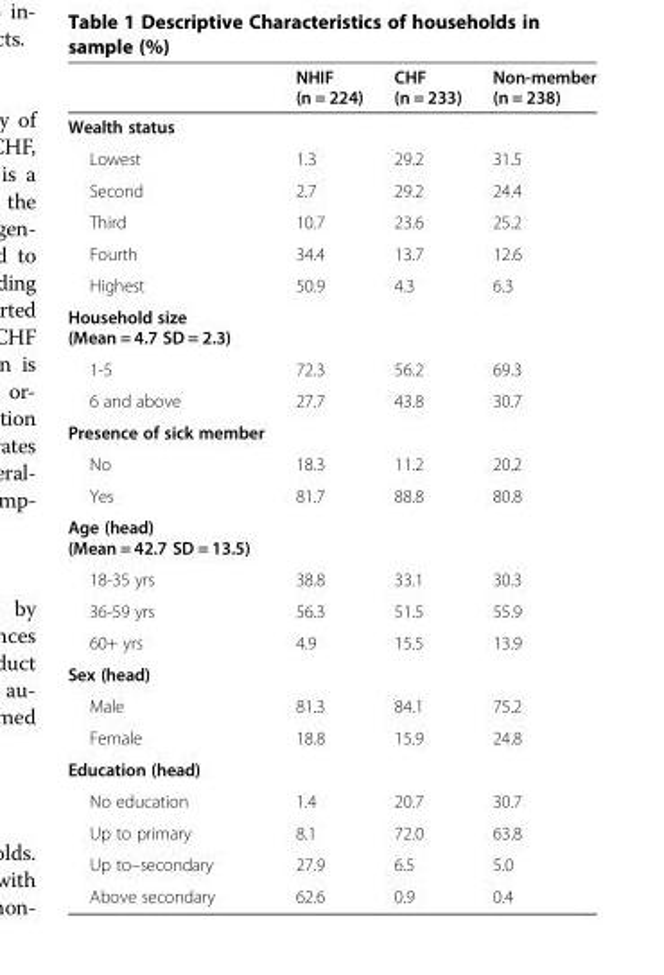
<table><thead><tr><td></td><td>NHIF (n = 224)</td><td>CHF (n = 233)</td><td>Non-member (n = 238)</td></tr></thead><tbody><tr><td colspan="4">Wealth status</td></tr><tr><td>Lowest</td><td>1.3</td><td>29.2</td><td>31.5</td></tr><tr><td>Second</td><td>2.7</td><td>29.2</td><td>24.4</td></tr><tr><td>Third</td><td>10.7</td><td>23.6</td><td>25.2</td></tr><tr><td>Fourth</td><td>34.4</td><td>13.7</td><td>12.6</td></tr><tr><td>Highest</td><td>50.9</td><td>4.3</td><td>6.3</td></tr><tr><td colspan="4">Household size (Mean = 4.7 SD = 2.3)</td></tr><tr><td>1-5</td><td>72.3</td><td>56.2</td><td>69.3</td></tr><tr><td>6 and above</td><td>27.7</td><td>43.8</td><td>30.7</td></tr><tr><td colspan="4">Presence of sick member</td></tr><tr><td>No</td><td>18.3</td><td>11.2</td><td>20.2</td></tr><tr><td>Yes</td><td>81.7</td><td>88.8</td><td>80.8</td></tr><tr><td colspan="4">Age (head) (Mean = 42.7 SD = 13.5)</td></tr><tr><td>18-35 yrs</td><td>38.8</td><td>33.1</td><td>30.3</td></tr><tr><td>36-59 yrs</td><td>56.3</td><td>51.5</td><td>55.9</td></tr><tr><td>60+ yrs</td><td>4.9</td><td>15.5</td><td>13.9</td></tr><tr><td colspan="4">Sex (head)</td></tr><tr><td>Male</td><td>81.3</td><td>84.1</td><td>75.2</td></tr><tr><td>Female</td><td>18.8</td><td>15.9</td><td>24.8</td></tr><tr><td colspan="4">Education (head)</td></tr><tr><td>No education</td><td>1.4</td><td>20.7</td><td>30.7</td></tr><tr><td>Up to primary</td><td>8.1</td><td>72.0</td><td>63.8</td></tr><tr><td>Up to–secondary</td><td>27.9</td><td>6.5</td><td>5.0</td></tr><tr><td>Above secondary</td><td>62.6</td><td>0.9</td><td>0.4</td></tr></tbody></table>